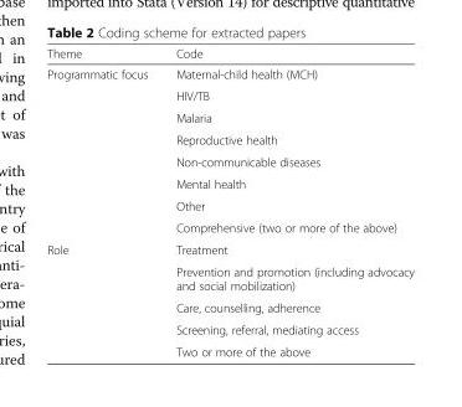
<table><thead><tr><td>Theme</td><td>Code</td></tr></thead><tbody><tr><td rowspan="8">Programmatic focus</td><td>Maternal-child health (MCH)</td></tr><tr><td>HIV/TB</td></tr><tr><td>Malaria</td></tr><tr><td>Reproductive health</td></tr><tr><td>Non-communicable diseases</td></tr><tr><td>Mental health</td></tr><tr><td>Other</td></tr><tr><td>Comprehensive (two or more of the above)</td></tr><tr><td rowspan="5">Role</td><td>Treatment</td></tr><tr><td>Prevention and promotion (including advocacy and social mobilization)</td></tr><tr><td>Care, counselling, adherence</td></tr><tr><td>Screening, referral, mediating access</td></tr><tr><td>Two or more of the above</td></tr></tbody></table>